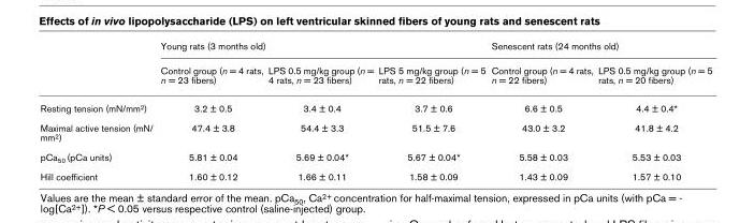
<table><thead><tr><td rowspan="2"></td><td colspan="3">Young rats (3 months old)</td><td colspan="2">Senescent rats (24 months old)</td></tr><tr><td>Control group (n = 4 rats, n = 23 fibers)</td><td>LPS 0.5 mg/kg group (n = 4 rats, n = 23 fibers)</td><td>LPS 5 mg/kg group (n = 5 rats, n = 22 fibers)</td><td>Control group (n = 4 rats, n = 22 fibers)</td><td>LPS 0.5 mg/kg group (n = 5 rats, n = 20 fibers)</td></tr></thead><tbody><tr><td>Resting tension (mN/mm2)</td><td>3.2 ± 0.5</td><td>3.4 ± 0.4</td><td>3.7 ± 0.6</td><td>6.6 ± 0.5</td><td>4.4 ± 0.4*</td></tr><tr><td>Maximal active tension (mN/ mm2)</td><td>47.4 ± 3.8</td><td>54.4 ± 3.3</td><td>51.5 ± 7.6</td><td>43.0 ± 3.2</td><td>41.8 ± 4.2</td></tr><tr><td>pCa50 (pCa units)</td><td>5.81 ± 0.04</td><td>5.69 ± 0.04*</td><td>5.67 ± 0.04*</td><td>5.58 ± 0.03</td><td>5.53 ± 0.03</td></tr><tr><td>Hill coefficient</td><td>1.60 ± 0.12</td><td>1.66 ± 0.11</td><td>1.58 ± 0.09</td><td>1.43 ± 0.09</td><td>1.57 ± 0.10</td></tr></tbody></table>